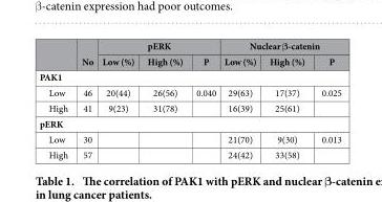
<table><thead><tr><td rowspan="2"></td><td rowspan="2">No</td><td colspan="3">pERK</td><td colspan="3">Nuclear β-catenin</td></tr><tr><td>Low (%)</td><td>High (%)</td><td>P</td><td>Low (%)</td><td>High (%)</td><td>P</td></tr></thead><tbody><tr><td colspan="8">PAK1</td></tr><tr><td>Low</td><td>46</td><td>20(44)</td><td>26(56)</td><td>0.040</td><td>29(63)</td><td>17(37)</td><td>0.025</td></tr><tr><td>High</td><td>41</td><td>9(23)</td><td>31(78)</td><td></td><td>16(39)</td><td>25(61)</td><td></td></tr><tr><td colspan="8">pERK</td></tr><tr><td>Low</td><td>30</td><td></td><td></td><td></td><td>21(70)</td><td>9(30)</td><td>0.013</td></tr><tr><td>High</td><td>57</td><td></td><td></td><td></td><td>24(42)</td><td>33(58)</td><td></td></tr></tbody></table>